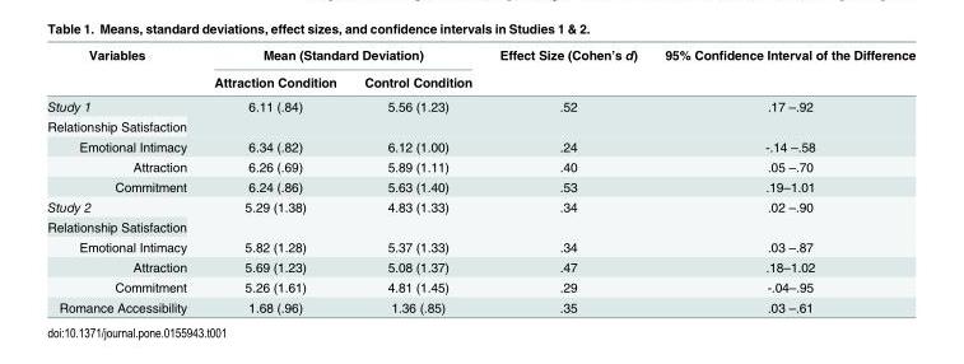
<table><thead><tr><td rowspan="2">Variables</td><td colspan="2">Mean (Standard Deviation)</td><td rowspan="2">Effect Size (Cohen’s d)</td><td rowspan="2">95% Confidence Interval of the Difference</td></tr><tr><td>Attraction Condition</td><td>Control Condition</td></tr></thead><tbody><tr><td>Study 1</td><td rowspan="2">6.11 (.84)</td><td rowspan="2">5.56 (1.23)</td><td rowspan="2">.52</td><td rowspan="2">.17 –.92</td></tr><tr><td>Relationship Satisfaction</td></tr><tr><td>Emotional Intimacy</td><td>6.34 (.82)</td><td>6.12 (1.00)</td><td>.24</td><td>-.14 –.58</td></tr><tr><td>Attraction</td><td>6.26 (.69)</td><td>5.89 (1.11)</td><td>.40</td><td>.05 –.70</td></tr><tr><td>Commitment</td><td>6.24 (.86)</td><td>5.63 (1.40)</td><td>.53</td><td>.19–1.01</td></tr><tr><td>Study 2</td><td rowspan="2">5.29 (1.38)</td><td rowspan="2">4.83 (1.33)</td><td rowspan="2">.34</td><td rowspan="2">.02 –.90</td></tr><tr><td>Relationship Satisfaction</td></tr><tr><td>Emotional Intimacy</td><td>5.82 (1.28)</td><td>5.37 (1.33)</td><td>.34</td><td>.03 –.87</td></tr><tr><td>Attraction</td><td>5.69 (1.23)</td><td>5.08 (1.37)</td><td>.47</td><td>.18–1.02</td></tr><tr><td>Commitment</td><td>5.26 (1.61)</td><td>4.81 (1.45)</td><td>.29</td><td>-.04–.95</td></tr><tr><td>Romance Accessibility</td><td>1.68 (.96)</td><td>1.36 (.85)</td><td>.35</td><td>.03 –.61</td></tr></tbody></table>